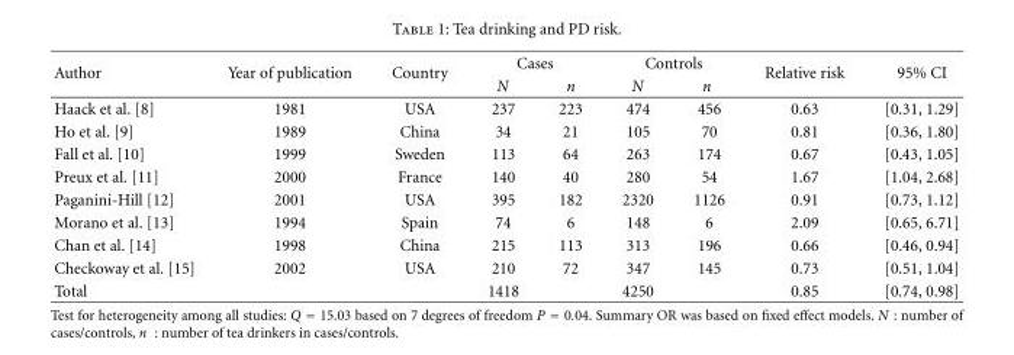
<table><thead><tr><td rowspan="2">Author</td><td rowspan="2">Year of publication</td><td rowspan="2">Country</td><td colspan="2">Cases</td><td colspan="2">Controls</td><td rowspan="2">Relative risk</td><td rowspan="2">95% CI</td></tr><tr><td>N</td><td>n</td><td>N</td><td>n</td></tr></thead><tbody><tr><td>Haack et al. [8]</td><td>1981</td><td>USA</td><td>237</td><td>223</td><td>474</td><td>456</td><td>0.63</td><td>[0.31, 1.29]</td></tr><tr><td>Ho et al. [9]</td><td>1989</td><td>China</td><td>34</td><td>21</td><td>105</td><td>70</td><td>0.81</td><td>[0.36, 1.80]</td></tr><tr><td>Fall et al. [10]</td><td>1999</td><td>Sweden</td><td>113</td><td>64</td><td>263</td><td>174</td><td>0.67</td><td>[0.43, 1.05]</td></tr><tr><td>Preux et al. [11]</td><td>2000</td><td>France</td><td>140</td><td>40</td><td>280</td><td>54</td><td>1.67</td><td>[1.04, 2.68]</td></tr><tr><td>Paganini-Hill [12]</td><td>2001</td><td>USA</td><td>395</td><td>182</td><td>2320</td><td>1126</td><td>0.91</td><td>[0.73, 1.12]</td></tr><tr><td>Morano et al. [13]</td><td>1994</td><td>Spain</td><td>74</td><td>6</td><td>148</td><td>6</td><td>2.09</td><td>[0.65, 6.71]</td></tr><tr><td>Chan et al. [14]</td><td>1998</td><td>China</td><td>215</td><td>113</td><td>313</td><td>196</td><td>0.66</td><td>[0.46, 0.94]</td></tr><tr><td>Checkoway et al. [15]</td><td>2002</td><td>USA</td><td>210</td><td>72</td><td>347</td><td>145</td><td>0.73</td><td>[0.51, 1.04]</td></tr><tr><td>Total</td><td></td><td></td><td>1418</td><td></td><td>4250</td><td></td><td>0.85</td><td>[0.74, 0.98]</td></tr></tbody></table>